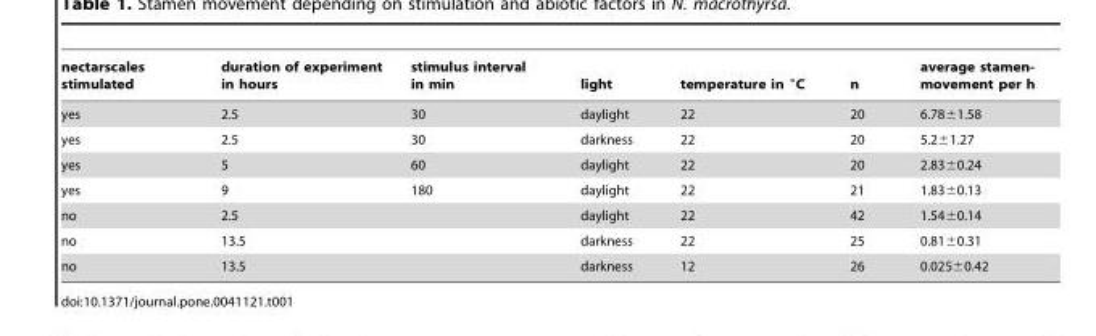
<table><thead><tr><td>nectarscales stimulated</td><td>duration of experiment in hours</td><td>stimulus interval in min</td><td>light</td><td>temperature in °C</td><td>n</td><td>average stamen- movement per h</td></tr></thead><tbody><tr><td>yes</td><td>2.5</td><td>30</td><td>daylight</td><td>22</td><td>20</td><td>6.78±1.58</td></tr><tr><td>yes</td><td>2.5</td><td>30</td><td>darkness</td><td>22</td><td>20</td><td>5.2±1.27</td></tr><tr><td>yes</td><td>5</td><td>60</td><td>daylight</td><td>22</td><td>20</td><td>2.83±0.24</td></tr><tr><td>yes</td><td>9</td><td>180</td><td>daylight</td><td>22</td><td>21</td><td>1.83±0.13</td></tr><tr><td>no</td><td>2.5</td><td></td><td>daylight</td><td>22</td><td>42</td><td>1.54±0.14</td></tr><tr><td>no</td><td>13.5</td><td></td><td>darkness</td><td>22</td><td>25</td><td>0.81±0.31</td></tr><tr><td>no</td><td>13.5</td><td></td><td>darkness</td><td>12</td><td>26</td><td>0.025±0.42</td></tr></tbody></table>